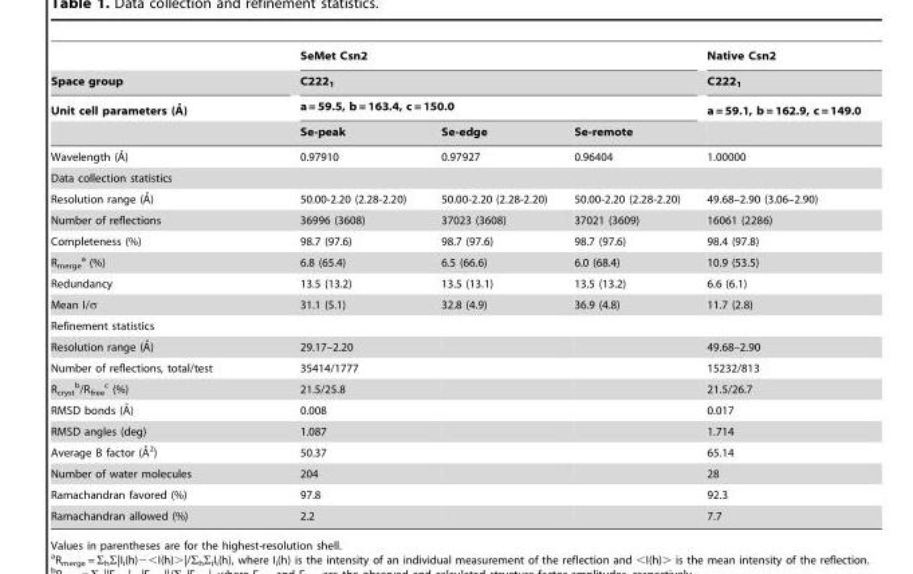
<table><thead><tr><td rowspan="4">Space group Unit cell parameters (A˚)</td><td rowspan="3" colspan="3">SeMet Csn2 C222<sub>1</sub> a = 59.5, b = 163.4, c = 150.0</td><td rowspan="4">Native Csn2 C222<sub>1</sub> a = 59.1, b = 162.9, c = 149.0</td></tr><tr></tr><tr></tr><tr><td>Se-peak</td><td>Se-edge</td><td>Se-remote</td></tr></thead><tbody><tr><td>Wavelength (A˚)</td><td>0.97910</td><td>0.97927</td><td>0.96404</td><td>1.00000</td></tr><tr><td colspan="5">Data collection statistics</td></tr><tr><td>Resolution range (A˚)</td><td>50.00-2.20 (2.28-2.20)</td><td>50.00-2.20 (2.28-2.20)</td><td>50.00-2.20 (2.28-2.20)</td><td>49.68–2.90 (3.06–2.90)</td></tr><tr><td>Number of reflections</td><td>36996 (3608)</td><td>37023 (3608)</td><td>37021 (3609)</td><td>16061 (2286)</td></tr><tr><td>Completeness (%)</td><td>98.7 (97.6)</td><td>98.7 (97.6)</td><td>98.7 (97.6)</td><td>98.4 (97.8)</td></tr><tr><td>R<sub>merge</sub> a (%)</td><td>6.8 (65.4)</td><td>6.5 (66.6)</td><td>6.0 (68.4)</td><td>10.9 (53.5)</td></tr><tr><td>Redundancy</td><td>13.5 (13.2)</td><td>13.5 (13.1)</td><td>13.5 (13.2)</td><td>6.6 (6.1)</td></tr><tr><td>Mean I/σ</td><td>31.1 (5.1)</td><td>32.8 (4.9)</td><td>36.9 (4.8)</td><td>11.7 (2.8)</td></tr><tr><td colspan="5">Refinement statistics</td></tr><tr><td>Resolution range (A˚)</td><td>29.17–2.20</td><td></td><td></td><td>49.68–2.90</td></tr><tr><td>Number of reflections, total/test</td><td>35414/1777</td><td></td><td></td><td>15232/813</td></tr><tr><td>R<sub>cryst</sub> b/R<sub>free</sub> c (%)</td><td>21.5/25.8</td><td></td><td></td><td>21.5/26.7</td></tr><tr><td>RMSD bonds (A˚)</td><td>0.008</td><td></td><td></td><td>0.017</td></tr><tr><td>RMSD angles (deg)</td><td>1.087</td><td></td><td></td><td>1.714</td></tr><tr><td>Average B factor (A˚2)</td><td>50.37</td><td></td><td></td><td>65.14</td></tr><tr><td>Number of water molecules</td><td>204</td><td></td><td></td><td>28</td></tr><tr><td>Ramachandran favored (%)</td><td>97.8</td><td></td><td></td><td>92.3</td></tr><tr><td>Ramachandran allowed (%)</td><td>2.2</td><td></td><td></td><td>7.7</td></tr></tbody></table>